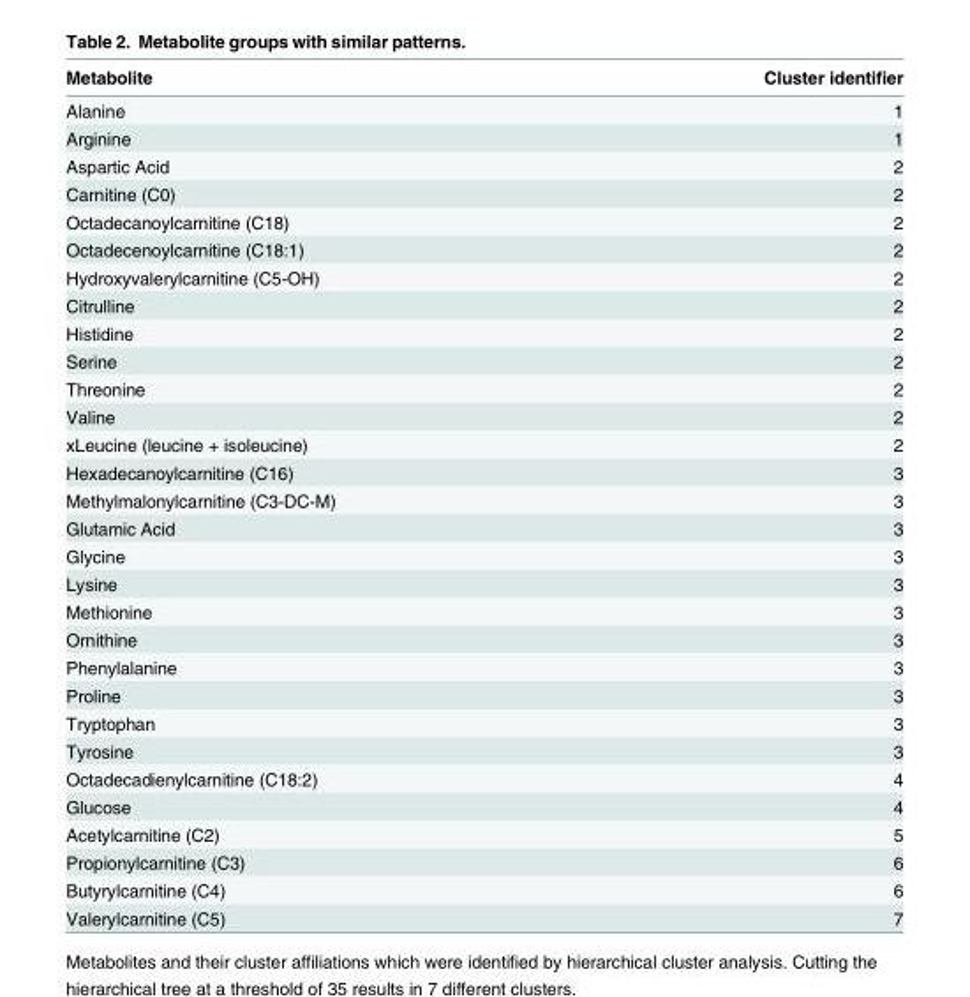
<table><thead><tr><td>Metabolite</td><td>Cluster identifier</td></tr></thead><tbody><tr><td>Alanine</td><td>1</td></tr><tr><td>Arginine</td><td>1</td></tr><tr><td>Aspartic Acid</td><td>2</td></tr><tr><td>Carnitine (C0)</td><td>2</td></tr><tr><td>Octadecanoylcarnitine (C18)</td><td>2</td></tr><tr><td>Octadecenoylcarnitine (C18:1)</td><td>2</td></tr><tr><td>Hydroxyvalerylcarnitine (C5-OH)</td><td>2</td></tr><tr><td>Citrulline</td><td>2</td></tr><tr><td>Histidine</td><td>2</td></tr><tr><td>Serine</td><td>2</td></tr><tr><td>Threonine</td><td>2</td></tr><tr><td>Valine</td><td>2</td></tr><tr><td>xLeucine (leucine + isoleucine)</td><td>2</td></tr><tr><td>Hexadecanoylcarnitine (C16)</td><td>3</td></tr><tr><td>Methylmalonylcarnitine (C3-DC-M)</td><td>3</td></tr><tr><td>Glutamic Acid</td><td>3</td></tr><tr><td>Glycine</td><td>3</td></tr><tr><td>Lysine</td><td>3</td></tr><tr><td>Methionine</td><td>3</td></tr><tr><td>Ornithine</td><td>3</td></tr><tr><td>Phenylalanine</td><td>3</td></tr><tr><td>Proline</td><td>3</td></tr><tr><td>Tryptophan</td><td>3</td></tr><tr><td>Tyrosine</td><td>3</td></tr><tr><td>Octadecadienylcarnitine (C18:2)</td><td>4</td></tr><tr><td>Glucose</td><td>4</td></tr><tr><td>Acetylcarnitine (C2)</td><td>5</td></tr><tr><td>Propionylcarnitine (C3)</td><td>6</td></tr><tr><td>Butyrylcarnitine (C4)</td><td>6</td></tr><tr><td>Valerylcarnitine (C5)</td><td>7</td></tr></tbody></table>